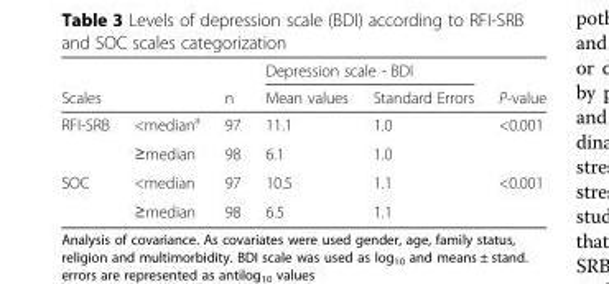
<table><thead><tr><td></td><td></td><td rowspan="2">n</td><td colspan="2">Depression scale - BDI</td><td rowspan="2">P-value</td></tr><tr><td colspan="2">Scales</td><td>Mean values</td><td>Standard Errors</td></tr></thead><tbody><tr><td rowspan="2">RFI-SRB</td><td>&lt;median<sup>a</sup></td><td>97</td><td>11.1</td><td>1.0</td><td rowspan="2">&lt;0.001</td></tr><tr><td>≥median</td><td>98</td><td>6.1</td><td>1.0</td></tr><tr><td rowspan="2">SOC</td><td>&lt;median</td><td>97</td><td>10.5</td><td>1.1</td><td rowspan="2">&lt;0.001</td></tr><tr><td>≥median</td><td>98</td><td>6.5</td><td>1.1</td></tr></tbody></table>